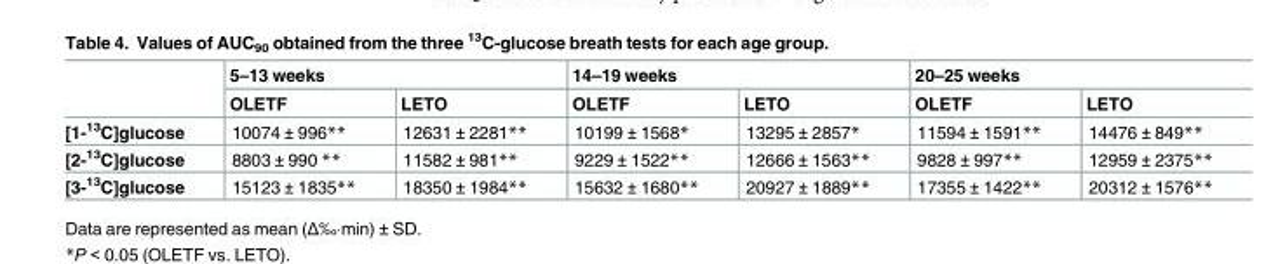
<table><thead><tr><td rowspan="2"></td><td colspan="2">5–13 weeks</td><td colspan="2">14–19 weeks</td><td colspan="2">20–25 weeks</td></tr><tr><td>OLETF</td><td>LETO</td><td>OLETF</td><td>LETO</td><td>OLETF</td><td>LETO</td></tr></thead><tbody><tr><td>[1-<sup>13</sup>C]glucose</td><td>10074 ± 996**</td><td>12631 ± 2281**</td><td>10199 ± 1568*</td><td>13295 ± 2857*</td><td>11594 ± 1591**</td><td>14476 ± 849**</td></tr><tr><td>[2-<sup>13</sup>C]glucose</td><td>8803 ± 990 **</td><td>11582 ± 981**</td><td>9229 ± 1522**</td><td>12666 ± 1563**</td><td>9828 ± 997**</td><td>12959 ± 2375**</td></tr><tr><td>[3-<sup>13</sup>C]glucose</td><td>15123 ± 1835**</td><td>18350 ± 1984**</td><td>15632 ± 1680**</td><td>20927 ± 1889**</td><td>17355 ± 1422**</td><td>20312 ± 1576**</td></tr></tbody></table>